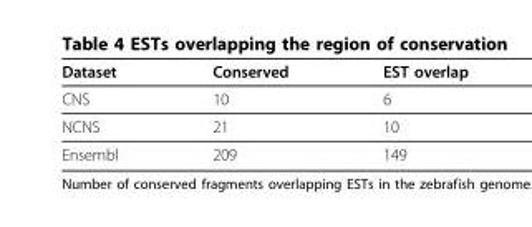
<table><thead><tr><td>Dataset</td><td>Conserved</td><td>EST overlap</td></tr></thead><tbody><tr><td>CNS</td><td>10</td><td>6</td></tr><tr><td>NCNS</td><td>21</td><td>10</td></tr><tr><td>Ensembl</td><td>209</td><td>149</td></tr></tbody></table>